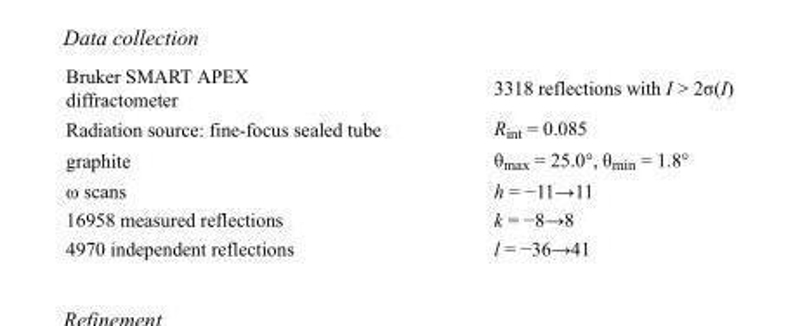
<table><tbody><tr><td>Bruker SMART APEX diffractometer</td><td>3318 reflections with I &gt; 2σ(I)</td></tr><tr><td>Radiation source: fine-focus sealed tube</td><td>R<sub>int</sub> = 0.085</td></tr><tr><td>graphite</td><td>θ<sub>max</sub> = 25.0°, θ<sub>min</sub> = 1.8°</td></tr><tr><td>ω scans</td><td>h = −11→11</td></tr><tr><td>16958 measured reflections</td><td>k = −8→8</td></tr><tr><td>4970 independent reflections</td><td>l = −36→41</td></tr></tbody></table>